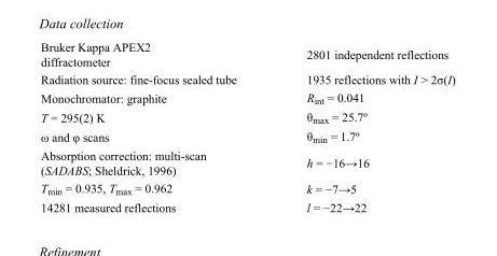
<table><tbody><tr><td>Bruker Kappa APEX2 diffractometer</td><td>2801 independent reflections</td></tr><tr><td>Radiation source: fine-focus sealed tube</td><td>1935 reflections with I &gt; 2σ(I)</td></tr><tr><td>Monochromator: graphite</td><td>R<sub>int</sub> = 0.041</td></tr><tr><td>T = 295(2) K</td><td>θ<sub>max</sub> = 25.7º</td></tr><tr><td>ω and φ scans</td><td>θ<sub>min</sub> = 1.7º</td></tr><tr><td>Absorption correction: multi-scan (SADABS; Sheldrick, 1996)</td><td>h = −16→16</td></tr><tr><td>T<sub>min</sub> = 0.935, T<sub>max</sub> = 0.962</td><td>k = −7→5</td></tr><tr><td>14281 measured reflections</td><td>l = −22→22</td></tr></tbody></table>